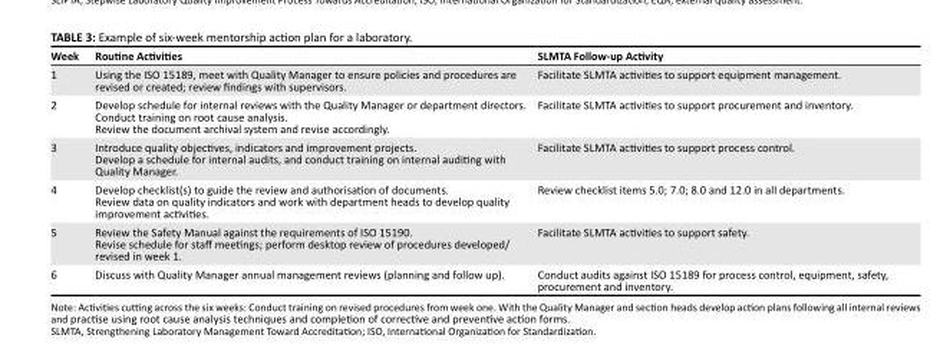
<table><thead><tr><td>Week</td><td>Routine Activities</td><td>SLMTA Follow-up Activity</td></tr></thead><tbody><tr><td>1</td><td>Using the ISO 15189, meet with Quality Manager to ensure policies and procedures are revised or created; review findings with supervisors.</td><td>Facilitate SLMTA activities to support equipment management.</td></tr><tr><td>2</td><td>Develop schedule for internal reviews with the Quality Manager or department directors. Conduct training on root cause analysis. Review the document archival system and revise accordingly.</td><td>Facilitate SLMTA activities to support procurement and inventory.</td></tr><tr><td>3</td><td>Introduce quality objectives, indicators and improvement projects. Develop a schedule for internal audits, and conduct training on internal auditing with Quality Manager.</td><td>Facilitate SLMTA activities to support process control.</td></tr><tr><td>4</td><td>Develop checklist(s) to guide the review and authorisation of documents. Review data on quality indicators and work with department heads to develop quality improvement activities.</td><td>Review checklist items 5.0; 7.0; 8.0 and 12.0 in all departments.</td></tr><tr><td>5</td><td>Review the Safety Manual against the requirements of ISO 15190. Revise schedule for staff meetings; perform desktop review of procedures developed/ revised in week 1.</td><td>Facilitate SLMTA activities to support safety.</td></tr><tr><td>6</td><td>Discuss with Quality Manager annual management reviews (planning and follow up).</td><td>Conduct audits against ISO 15189 for process control, equipment, safety, procurement and inventory.</td></tr></tbody></table>